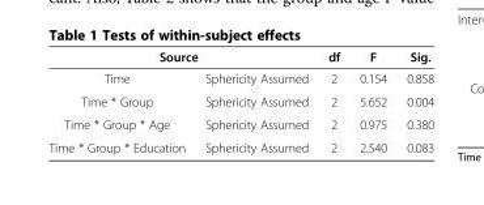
<table><thead><tr><td colspan="2">Source</td><td rowspan="2">df 2</td><td rowspan="2">F 0.154</td><td rowspan="2">Sig. 0.858</td></tr><tr><td>Time</td><td>Sphericity Assumed</td></tr></thead><tbody><tr><td>Time * Group</td><td>Sphericity Assumed</td><td>2</td><td>5.652</td><td>0.004</td></tr><tr><td>Time * Group * Age</td><td>Sphericity Assumed</td><td>2</td><td>0.975</td><td>0.380</td></tr><tr><td>Time * Group * Education</td><td>Sphericity Assumed</td><td>2</td><td>2.540</td><td>0.083</td></tr></tbody></table>